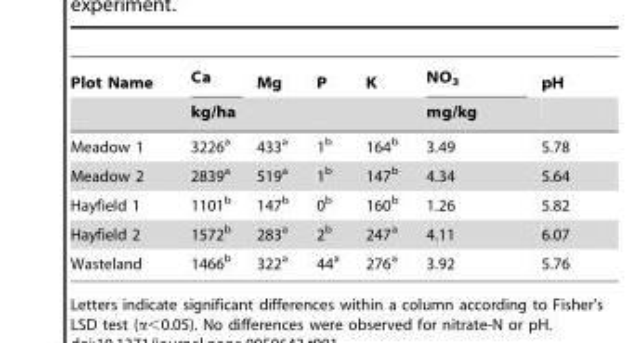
<table><thead><tr><td rowspan="2">Plot Name</td><td>Ca</td><td>Mg</td><td>P</td><td>K</td><td rowspan="2">NO<sub>3</sub> mg/kg</td><td rowspan="2">pH</td></tr><tr><td colspan="4">kg/ha</td></tr></thead><tbody><tr><td>Meadow 1</td><td>3226<sup>a</sup></td><td>433<sup>a</sup></td><td>1<sup>b</sup></td><td>164<sup>b</sup></td><td>3.49</td><td>5.78</td></tr><tr><td>Meadow 2</td><td>2839<sup>a</sup></td><td>519<sup>a</sup></td><td>1<sup>b</sup></td><td>147<sup>b</sup></td><td>4.34</td><td>5.64</td></tr><tr><td>Hayfield 1</td><td>1101<sup>b</sup></td><td>147<sup>b</sup></td><td>0<sup>b</sup></td><td>160<sup>b</sup></td><td>1.26</td><td>5.82</td></tr><tr><td>Hayfield 2</td><td>1572<sup>b</sup></td><td>283<sup>a</sup></td><td>2<sup>b</sup></td><td>247<sup>a</sup></td><td>4.11</td><td>6.07</td></tr><tr><td>Wasteland</td><td>1466<sup>b</sup></td><td>322<sup>a</sup></td><td>44<sup>a</sup></td><td>276<sup>a</sup></td><td>3.92</td><td>5.76</td></tr></tbody></table>